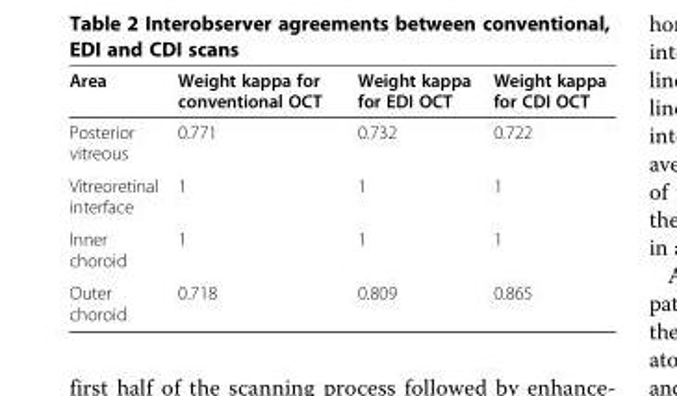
<table><thead><tr><td>Area</td><td>Weight kappa for conventional OCT</td><td>Weight kappa for EDI OCT</td><td>Weight kappa for CDI OCT</td></tr></thead><tbody><tr><td>Posterior vitreous</td><td>0.771</td><td>0.732</td><td>0.722</td></tr><tr><td>Vitreoretinal interface</td><td>1</td><td>1</td><td>1</td></tr><tr><td>Inner choroid</td><td>1</td><td>1</td><td>1</td></tr><tr><td>Outer choroid</td><td>0.718</td><td>0.809</td><td>0.865</td></tr></tbody></table>